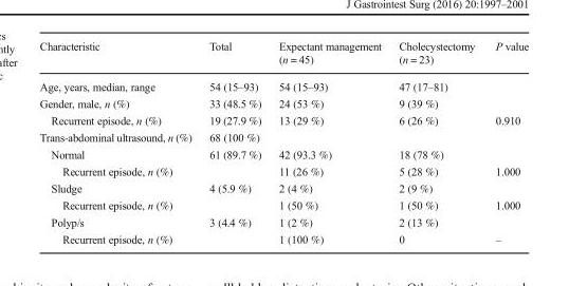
<table><thead><tr><td>Characteristic</td><td>Total</td><td>Expectant management (n = 45)</td><td>Cholecystectomy (n = 23)</td><td>P value</td></tr></thead><tbody><tr><td>Age, years, median, range</td><td>54 (15–93)</td><td>54 (15–93)</td><td>47 (17–81)</td><td></td></tr><tr><td>Gender, male, n (%)</td><td>33 (48.5 %)</td><td>24 (53 %)</td><td>9 (39 %)</td><td></td></tr><tr><td>Recurrent episode, n (%)</td><td>19 (27.9 %)</td><td>13 (29 %)</td><td>6 (26 %)</td><td>0.910</td></tr><tr><td>Trans-abdominal ultrasound, n (%)</td><td>68 (100 %)</td><td></td><td></td><td></td></tr><tr><td>Normal</td><td>61 (89.7 %)</td><td>42 (93.3 %)</td><td>18 (78 %)</td><td></td></tr><tr><td>Recurrent episode, n (%)</td><td></td><td>11 (26 %)</td><td>5 (28 %)</td><td>1.000</td></tr><tr><td>Sludge</td><td>4 (5.9 %)</td><td>2 (4 %)</td><td>2 (9 %)</td><td></td></tr><tr><td>Recurrent episode, n (%)</td><td></td><td>1 (50 %)</td><td>1 (50 %)</td><td>1.000</td></tr><tr><td>Polyp/s</td><td>3 (4.4 %)</td><td>1 (2 %)</td><td>2 (13 %)</td><td></td></tr><tr><td>Recurrent episode, n (%)</td><td></td><td>1 (100 %)</td><td>0</td><td>–</td></tr></tbody></table>